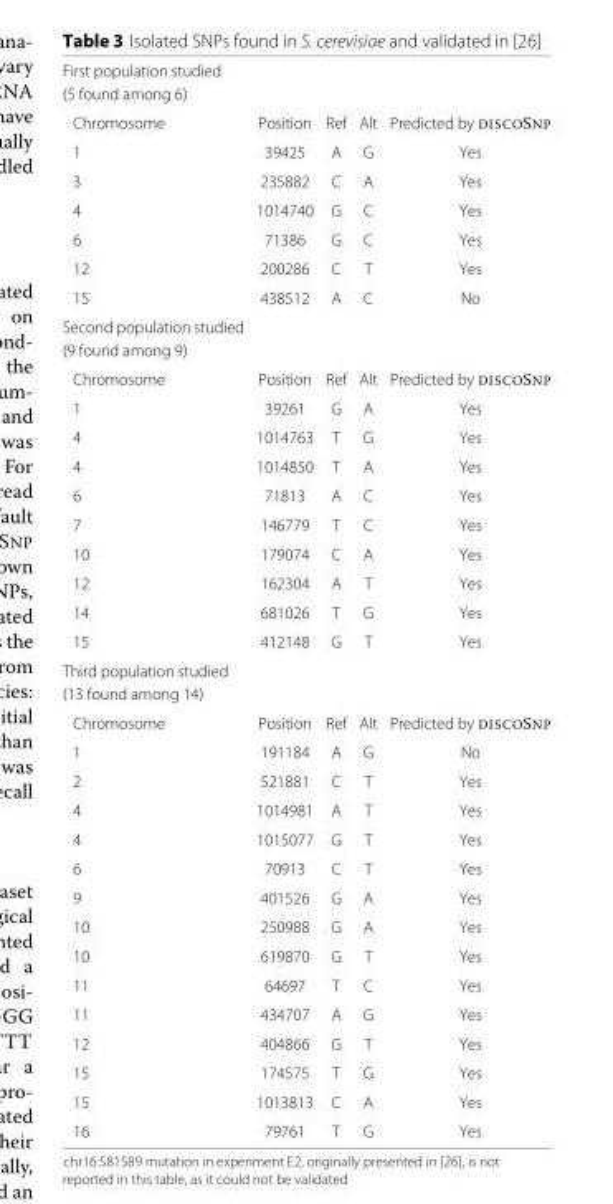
<table><tbody><tr><td colspan="5">First population studied</td></tr><tr><td colspan="5">(5 found among 6)</td></tr><tr><td>Chromosome</td><td>Position</td><td>Ref</td><td>Alt</td><td>Predicted by DISCOSNP</td></tr><tr><td>1</td><td>39425</td><td>A</td><td>G</td><td>Yes</td></tr><tr><td>3</td><td>235882</td><td>C</td><td>A</td><td>Yes</td></tr><tr><td>4</td><td>1014740</td><td>G</td><td>C</td><td>Yes</td></tr><tr><td>6</td><td>71386</td><td>G</td><td>C</td><td>Yes</td></tr><tr><td>12</td><td>200286</td><td>C</td><td>T</td><td>Yes</td></tr><tr><td>15</td><td>438512</td><td>A</td><td>C</td><td>No</td></tr><tr><td colspan="5">Second population studied</td></tr><tr><td colspan="5">(9 found among 9)</td></tr><tr><td>Chromosome</td><td>Position</td><td>Ref</td><td>Alt</td><td>Predicted by DISCOSNP</td></tr><tr><td>1</td><td>39261</td><td>G</td><td>A</td><td>Yes</td></tr><tr><td>4</td><td>1014763</td><td>T</td><td>G</td><td>Yes</td></tr><tr><td>4</td><td>1014850</td><td>T</td><td>A</td><td>Yes</td></tr><tr><td>6</td><td>71813</td><td>A</td><td>C</td><td>Yes</td></tr><tr><td>7</td><td>146779</td><td>T</td><td>C</td><td>Yes</td></tr><tr><td>10</td><td>179074</td><td>C</td><td>A</td><td>Yes</td></tr><tr><td>12</td><td>162304</td><td>A</td><td>T</td><td>Yes</td></tr><tr><td>14</td><td>681026</td><td>T</td><td>G</td><td>Yes</td></tr><tr><td>15</td><td>412148</td><td>G</td><td>T</td><td>Yes</td></tr><tr><td colspan="5">Third population studied</td></tr><tr><td colspan="5">(13 found among 14)</td></tr><tr><td>Chromosome</td><td>Position</td><td>Ref</td><td>Alt</td><td>Predicted by DISCOSNP</td></tr><tr><td>1</td><td>191184</td><td>A</td><td>G</td><td>No</td></tr><tr><td>2</td><td>521881</td><td>C</td><td>T</td><td>Yes</td></tr><tr><td>4</td><td>1014981</td><td>A</td><td>T</td><td>Yes</td></tr><tr><td>4</td><td>1015077</td><td>G</td><td>T</td><td>Yes</td></tr><tr><td>6</td><td>70913</td><td>C</td><td>T</td><td>Yes</td></tr><tr><td>9</td><td>401526</td><td>G</td><td>A</td><td>Yes</td></tr><tr><td>10</td><td>250988</td><td>G</td><td>A</td><td>Yes</td></tr><tr><td>10</td><td>619870</td><td>G</td><td>T</td><td>Yes</td></tr><tr><td>11</td><td>64697</td><td>T</td><td>C</td><td>Yes</td></tr><tr><td>11</td><td>434707</td><td>A</td><td>G</td><td>Yes</td></tr><tr><td>12</td><td>404866</td><td>G</td><td>T</td><td>Yes</td></tr><tr><td>15</td><td>174575</td><td>T</td><td>G</td><td>Yes</td></tr><tr><td>15</td><td>1013813</td><td>C</td><td>A</td><td>Yes</td></tr><tr><td>16</td><td>79761</td><td>T</td><td>G</td><td>Yes</td></tr></tbody></table>